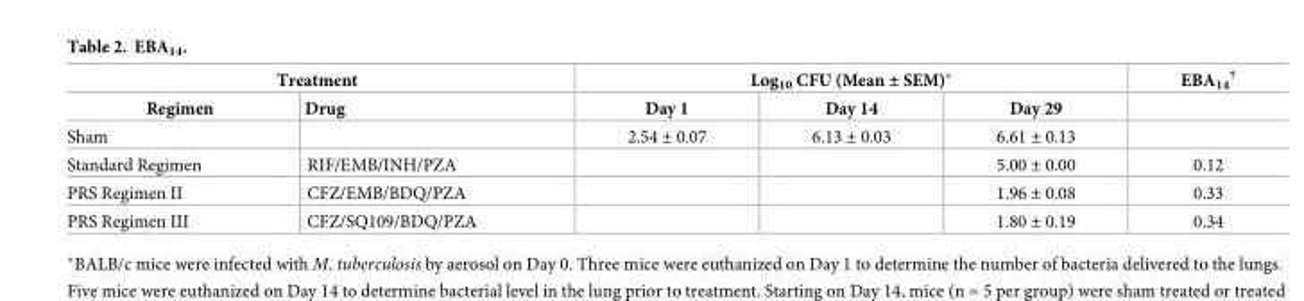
<table><thead><tr><td colspan="2">Treatment</td><td colspan="3">Log<sub>10</sub> CFU (Mean ± SEM)*</td><td rowspan="2">EBA<sub>14</sub> <sup>†</sup></td></tr><tr><td>Regimen</td><td>Drug</td><td>Day 1</td><td>Day 14</td><td>Day 29</td></tr></thead><tbody><tr><td>Sham</td><td></td><td>2.54 ± 0.07</td><td>6.13 ± 0.03</td><td>6.61 ± 0.13</td><td></td></tr><tr><td>Standard Regimen</td><td>RIF/EMB/INH/PZA</td><td></td><td></td><td>5.00 ± 0.00</td><td>0.12</td></tr><tr><td>PRS Regimen II</td><td>CFZ/EMB/BDQ/PZA</td><td></td><td></td><td>1.96 ± 0.08</td><td>0.33</td></tr><tr><td>PRS Regimen III</td><td>CFZ/SQ109/BDQ/PZA</td><td></td><td></td><td>1.80 ± 0.19</td><td>0.34</td></tr></tbody></table>